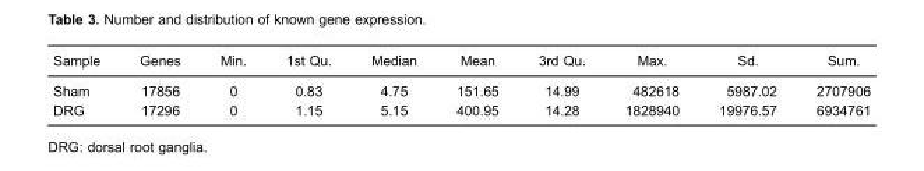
<table><thead><tr><td>Sample</td><td>Genes</td><td>Min.</td><td>1st Qu.</td><td>Median</td><td>Mean</td><td>3rd Qu.</td><td>Max.</td><td>Sd.</td><td>Sum.</td></tr></thead><tbody><tr><td>Sham</td><td>17856</td><td>0</td><td>0.83</td><td>4.75</td><td>151.65</td><td>14.99</td><td>482618</td><td>5987.02</td><td>2707906</td></tr><tr><td>DRG</td><td>17296</td><td>0</td><td>1.15</td><td>5.15</td><td>400.95</td><td>14.28</td><td>1828940</td><td>19976.57</td><td>6934761</td></tr></tbody></table>